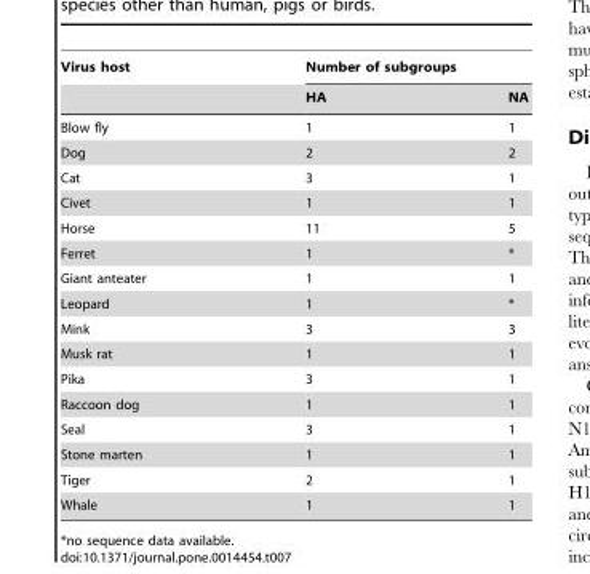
<table><thead><tr><td rowspan="2">Virus host</td><td colspan="2">Number of subgroups</td></tr><tr><td>HA</td><td>NA</td></tr></thead><tbody><tr><td>Blow fly</td><td>1</td><td>1</td></tr><tr><td>Dog</td><td>2</td><td>2</td></tr><tr><td>Cat</td><td>3</td><td>1</td></tr><tr><td>Civet</td><td>1</td><td>1</td></tr><tr><td>Horse</td><td>11</td><td>5</td></tr><tr><td>Ferret</td><td>1</td><td>*</td></tr><tr><td>Giant anteater</td><td>1</td><td>1</td></tr><tr><td>Leopard</td><td>1</td><td>*</td></tr><tr><td>Mink</td><td>3</td><td>3</td></tr><tr><td>Musk rat</td><td>1</td><td>1</td></tr><tr><td>Pika</td><td>3</td><td>1</td></tr><tr><td>Raccoon dog</td><td>1</td><td>1</td></tr><tr><td>Seal</td><td>3</td><td>1</td></tr><tr><td>Stone marten</td><td>1</td><td>1</td></tr><tr><td>Tiger</td><td>2</td><td>1</td></tr><tr><td>Whale</td><td>1</td><td>1</td></tr></tbody></table>